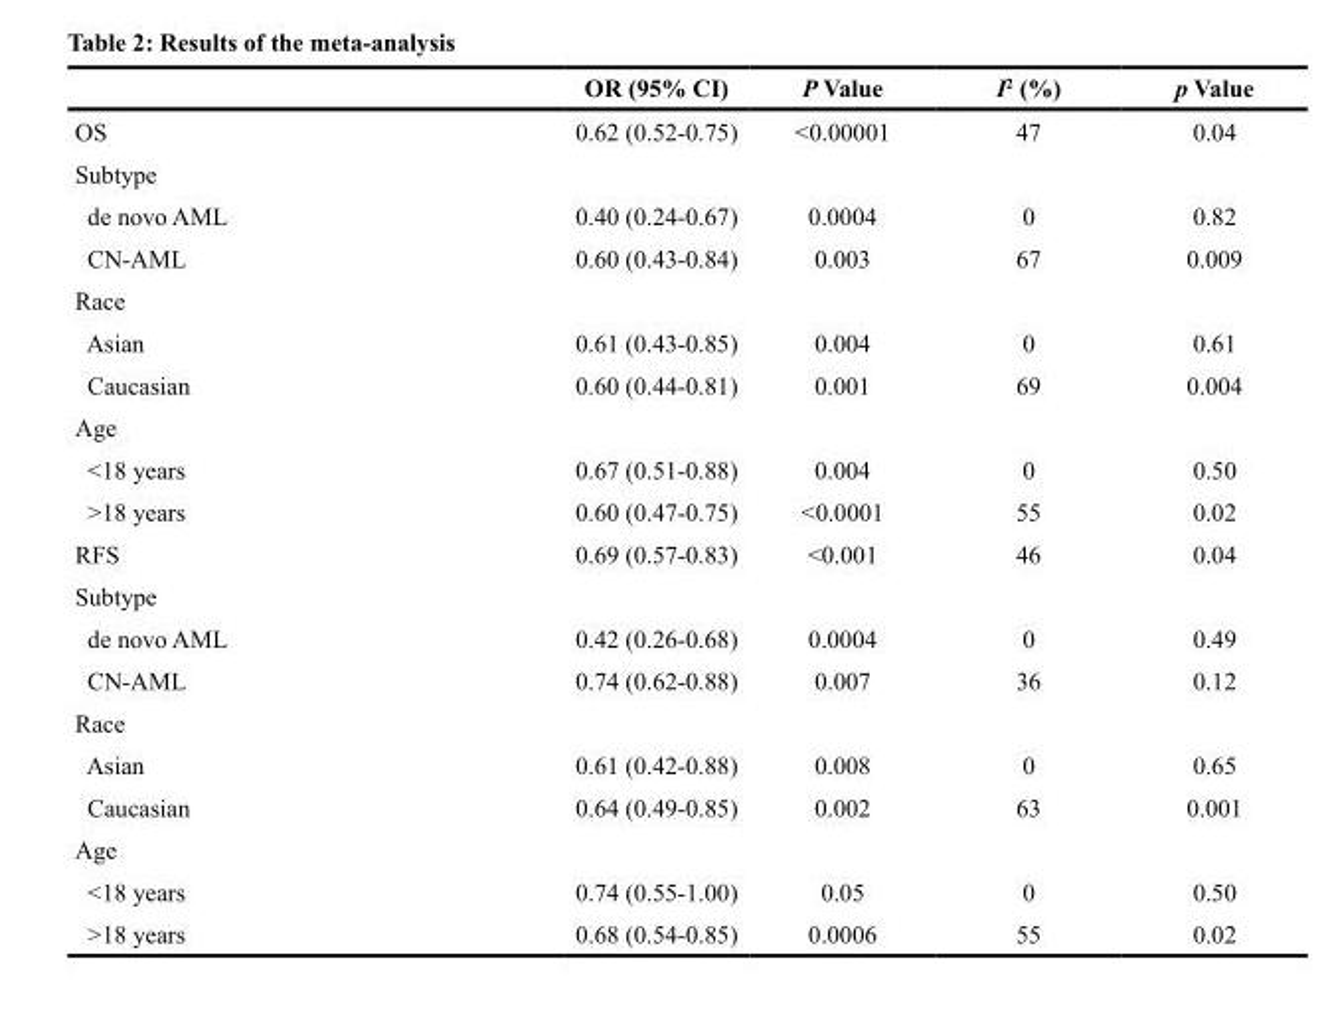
<table><thead><tr><td></td><td>OR (95% CI)</td><td>P Value</td><td>I<sup>2</sup> (%)</td><td>p Value</td></tr></thead><tbody><tr><td>OS</td><td>0.62 (0.52-0.75)</td><td>&lt;0.00001</td><td>47</td><td>0.04</td></tr><tr><td colspan="5">Subtype</td></tr><tr><td>de novo AML</td><td>0.40 (0.24-0.67)</td><td>0.0004</td><td>0</td><td>0.82</td></tr><tr><td>CN-AML</td><td>0.60 (0.43-0.84)</td><td>0.003</td><td>67</td><td>0.009</td></tr><tr><td colspan="5">Race</td></tr><tr><td>Asian</td><td>0.61 (0.43-0.85)</td><td>0.004</td><td>0</td><td>0.61</td></tr><tr><td>Caucasian</td><td>0.60 (0.44-0.81)</td><td>0.001</td><td>69</td><td>0.004</td></tr><tr><td colspan="5">Age</td></tr><tr><td>&lt;18 years</td><td>0.67 (0.51-0.88)</td><td>0.004</td><td>0</td><td>0.50</td></tr><tr><td>&gt;18 years</td><td>0.60 (0.47-0.75)</td><td>&lt;0.0001</td><td>55</td><td>0.02</td></tr><tr><td>RFS</td><td>0.69 (0.57-0.83)</td><td>&lt;0.001</td><td>46</td><td>0.04</td></tr><tr><td colspan="5">Subtype</td></tr><tr><td>de novo AML</td><td>0.42 (0.26-0.68)</td><td>0.0004</td><td>0</td><td>0.49</td></tr><tr><td>CN-AML</td><td>0.74 (0.62-0.88)</td><td>0.007</td><td>36</td><td>0.12</td></tr><tr><td colspan="5">Race</td></tr><tr><td>Asian</td><td>0.61 (0.42-0.88)</td><td>0.008</td><td>0</td><td>0.65</td></tr><tr><td>Caucasian</td><td>0.64 (0.49-0.85)</td><td>0.002</td><td>63</td><td>0.001</td></tr><tr><td colspan="5">Age</td></tr><tr><td>&lt;18 years</td><td>0.74 (0.55-1.00)</td><td>0.05</td><td>0</td><td>0.50</td></tr><tr><td>&gt;18 years</td><td>0.68 (0.54-0.85)</td><td>0.0006</td><td>55</td><td>0.02</td></tr></tbody></table>